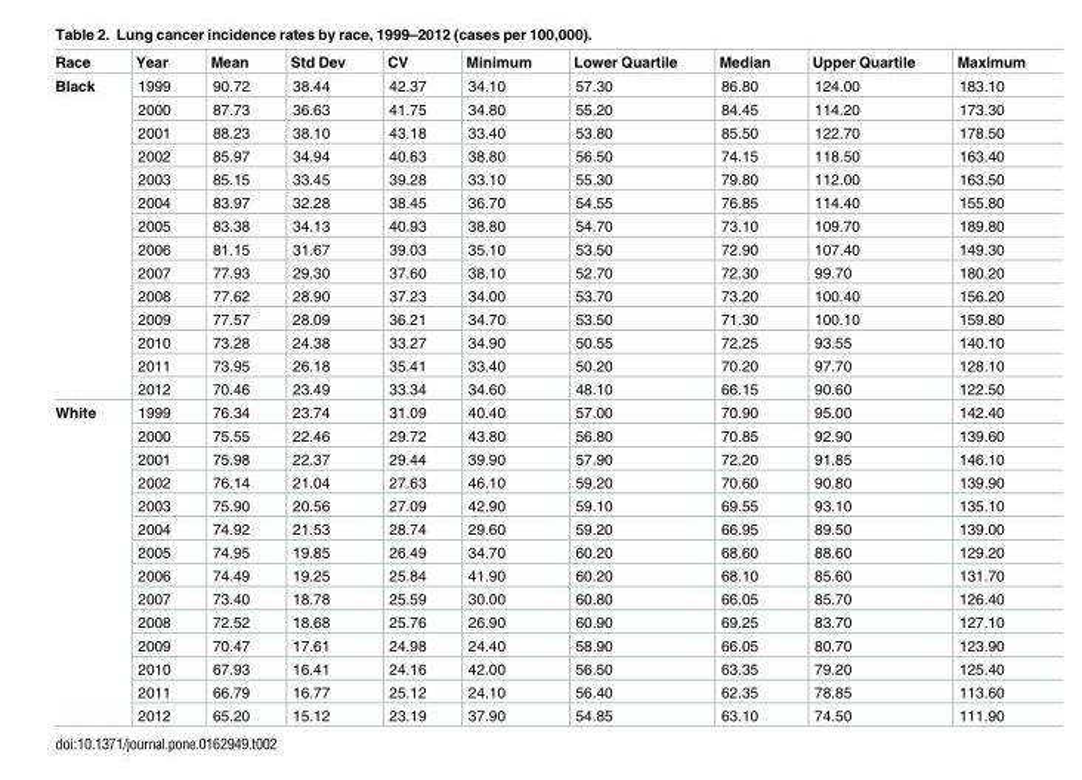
<table><thead><tr><td>Race</td><td>Year</td><td>Mean</td><td>Std Dev</td><td>CV</td><td>Minimum</td><td>Lower Quartile</td><td>Median</td><td>Upper Quartile</td><td>Maximum</td></tr></thead><tbody><tr><td rowspan="14">Black</td><td>1999</td><td>90.72</td><td>38.44</td><td>42.37</td><td>34.10</td><td>57.30</td><td>86.80</td><td>124.00</td><td>183.10</td></tr><tr><td>2000</td><td>87.73</td><td>36.63</td><td>41.75</td><td>34.80</td><td>55.20</td><td>84.45</td><td>114.20</td><td>173.30</td></tr><tr><td>2001</td><td>88.23</td><td>38.10</td><td>43.18</td><td>33.40</td><td>53.80</td><td>85.50</td><td>122.70</td><td>178.50</td></tr><tr><td>2002</td><td>85.97</td><td>34.94</td><td>40.63</td><td>38.80</td><td>56.50</td><td>74.15</td><td>118.50</td><td>163.40</td></tr><tr><td>2003</td><td>85.15</td><td>33.45</td><td>39.28</td><td>33.10</td><td>55.30</td><td>79.80</td><td>112.00</td><td>163.50</td></tr><tr><td>2004</td><td>83.97</td><td>32.28</td><td>38.45</td><td>36.70</td><td>54.55</td><td>76.85</td><td>114.40</td><td>155.80</td></tr><tr><td>2005</td><td>83.38</td><td>34.13</td><td>40.93</td><td>38.80</td><td>54.70</td><td>73.10</td><td>109.70</td><td>189.80</td></tr><tr><td>2006</td><td>81.15</td><td>31.67</td><td>39.03</td><td>35.10</td><td>53.50</td><td>72.90</td><td>107.40</td><td>149.30</td></tr><tr><td>2007</td><td>77.93</td><td>29.30</td><td>37.60</td><td>38.10</td><td>52.70</td><td>72.30</td><td>99.70</td><td>180.20</td></tr><tr><td>2008</td><td>77.62</td><td>28.90</td><td>37.23</td><td>34.00</td><td>53.70</td><td>73.20</td><td>100.40</td><td>156.20</td></tr><tr><td>2009</td><td>77.57</td><td>28.09</td><td>36.21</td><td>34.70</td><td>53.50</td><td>71.30</td><td>100.10</td><td>159.80</td></tr><tr><td>2010</td><td>73.28</td><td>24.38</td><td>33.27</td><td>34.90</td><td>50.55</td><td>72.25</td><td>93.55</td><td>140.10</td></tr><tr><td>2011</td><td>73.95</td><td>26.18</td><td>35.41</td><td>33.40</td><td>50.20</td><td>70.20</td><td>97.70</td><td>128.10</td></tr><tr><td>2012</td><td>70.46</td><td>23.49</td><td>33.34</td><td>34.60</td><td>48.10</td><td>66.15</td><td>90.60</td><td>122.50</td></tr><tr><td rowspan="14">White</td><td>1999</td><td>76.34</td><td>23.74</td><td>31.09</td><td>40.40</td><td>57.00</td><td>70.90</td><td>95.00</td><td>142.40</td></tr><tr><td>2000</td><td>75.55</td><td>22.46</td><td>29.72</td><td>43.80</td><td>56.80</td><td>70.85</td><td>92.90</td><td>139.60</td></tr><tr><td>2001</td><td>75.98</td><td>22.37</td><td>29.44</td><td>39.90</td><td>57.90</td><td>72.20</td><td>91.85</td><td>146.10</td></tr><tr><td>2002</td><td>76.14</td><td>21.04</td><td>27.63</td><td>46.10</td><td>59.20</td><td>70.60</td><td>90.80</td><td>139.90</td></tr><tr><td>2003</td><td>75.90</td><td>20.56</td><td>27.09</td><td>42.90</td><td>59.10</td><td>69.55</td><td>93.10</td><td>135.10</td></tr><tr><td>2004</td><td>74.92</td><td>21.53</td><td>28.74</td><td>29.60</td><td>59.20</td><td>66.95</td><td>89.50</td><td>139.00</td></tr><tr><td>2005</td><td>74.95</td><td>19.85</td><td>26.49</td><td>34.70</td><td>60.20</td><td>68.60</td><td>88.60</td><td>129.20</td></tr><tr><td>2006</td><td>74.49</td><td>19.25</td><td>25.84</td><td>41.90</td><td>60.20</td><td>68.10</td><td>85.60</td><td>131.70</td></tr><tr><td>2007</td><td>73.40</td><td>18.78</td><td>25.59</td><td>30.00</td><td>60.80</td><td>66.05</td><td>85.70</td><td>126.40</td></tr><tr><td>2008</td><td>72.52</td><td>18.68</td><td>25.76</td><td>26.90</td><td>60.90</td><td>69.25</td><td>83.70</td><td>127.10</td></tr><tr><td>2009</td><td>70.47</td><td>17.61</td><td>24.98</td><td>24.40</td><td>58.90</td><td>66.05</td><td>80.70</td><td>123.90</td></tr><tr><td>2010</td><td>67.93</td><td>16.41</td><td>24.16</td><td>42.00</td><td>56.50</td><td>63.35</td><td>79.20</td><td>125.40</td></tr><tr><td>2011</td><td>66.79</td><td>16.77</td><td>25.12</td><td>24.10</td><td>56.40</td><td>62.35</td><td>78.85</td><td>113.60</td></tr><tr><td>2012</td><td>65.20</td><td>15.12</td><td>23.19</td><td>37.90</td><td>54.85</td><td>63.10</td><td>74.50</td><td>111.90</td></tr></tbody></table>